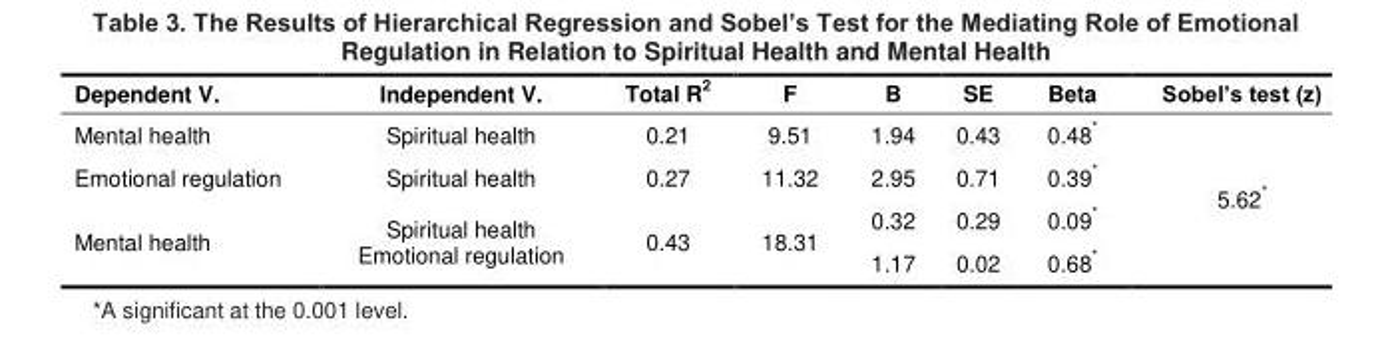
<table><thead><tr><td>Dependent V.</td><td>Independent V.</td><td>Total R<sup>2</sup></td><td>F</td><td>B</td><td>SE</td><td>Beta</td><td>Sobel’s test (z)</td></tr></thead><tbody><tr><td>Mental health</td><td>Spiritual health</td><td>0.21</td><td>9.51</td><td>1.94</td><td>0.43</td><td>0.48*</td><td rowspan="4">5.62*</td></tr><tr><td>Emotional regulation</td><td>Spiritual health</td><td>0.27</td><td>11.32</td><td>2.95</td><td>0.71</td><td>0.39*</td></tr><tr><td rowspan="2">Mental health</td><td rowspan="2">Spiritual health Emotional regulation</td><td rowspan="2">0.43</td><td rowspan="2">18.31</td><td>0.32</td><td>0.29</td><td>0.09*</td></tr><tr><td>1.17</td><td>0.02</td><td>0.68*</td></tr></tbody></table>